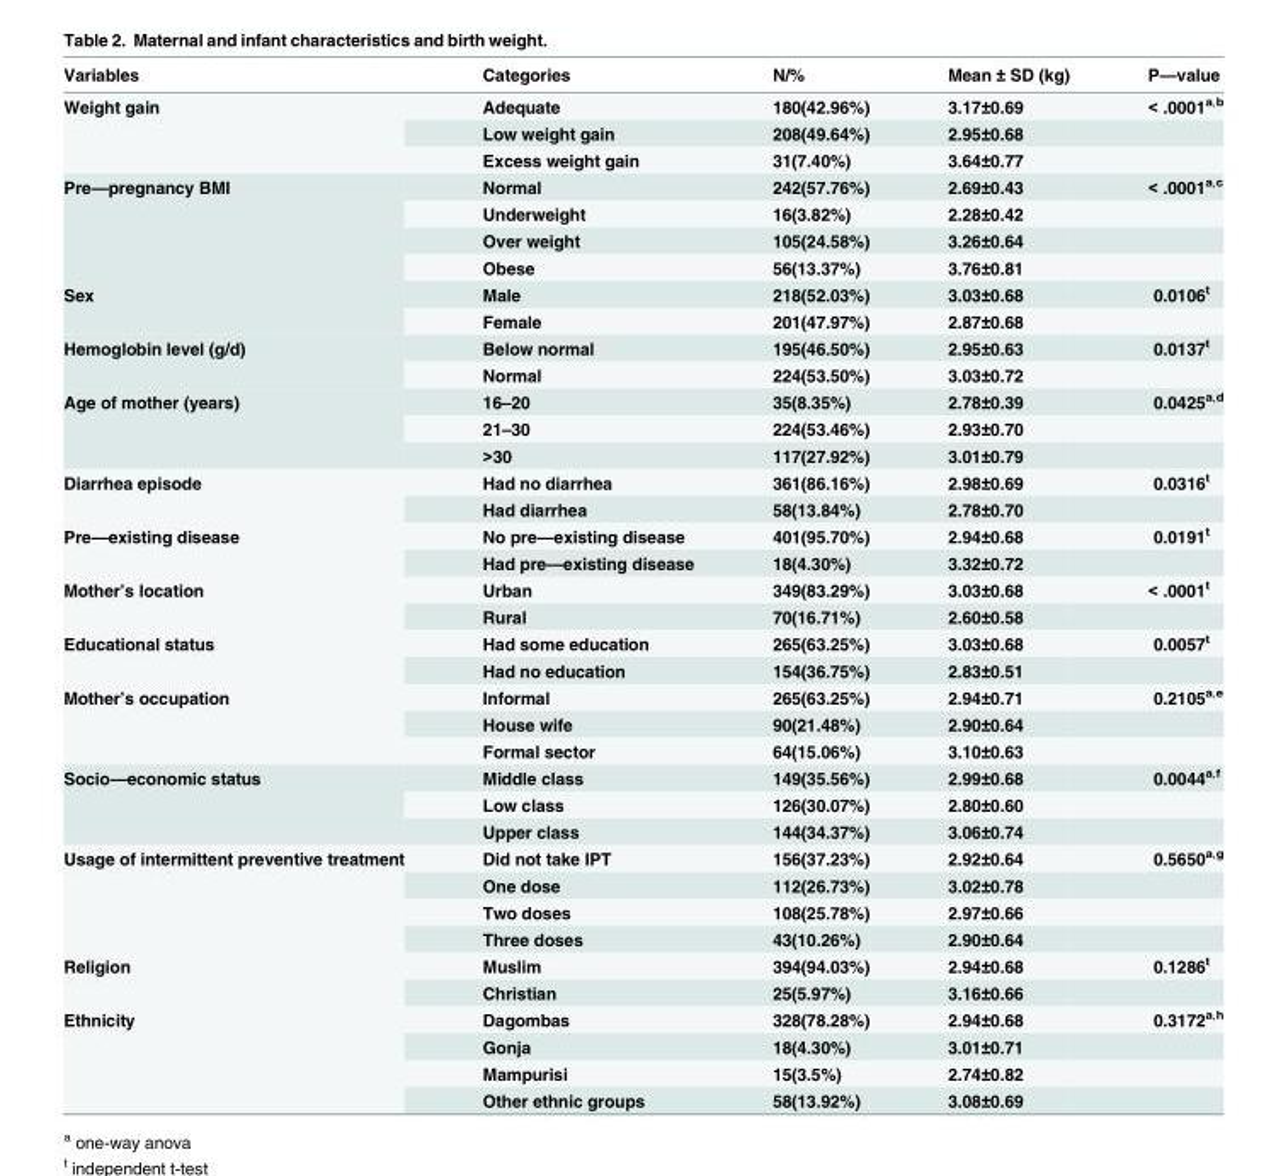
<table><thead><tr><td>Variables</td><td>Categories</td><td>N/%</td><td>Mean ± SD (kg)</td><td>P—value</td></tr></thead><tbody><tr><td rowspan="3">Weight gain</td><td>Adequate</td><td>180(42.96%)</td><td>3.17±0.69</td><td>&lt; .0001<sup>a,b</sup></td></tr><tr><td>Low weight gain</td><td>208(49.64%)</td><td>2.95±0.68</td><td></td></tr><tr><td>Excess weight gain</td><td>31(7.40%)</td><td>3.64±0.77</td><td></td></tr><tr><td rowspan="4">Pre—pregnancy BMI</td><td>Normal</td><td>242(57.76%)</td><td>2.69±0.43</td><td>&lt; .0001<sup>a,c</sup></td></tr><tr><td>Underweight</td><td>16(3.82%)</td><td>2.28±0.42</td><td></td></tr><tr><td>Over weight</td><td>105(24.58%)</td><td>3.26±0.64</td><td></td></tr><tr><td>Obese</td><td>56(13.37%)</td><td>3.76±0.81</td><td></td></tr><tr><td rowspan="2">Sex</td><td>Male</td><td>218(52.03%)</td><td>3.03±0.68</td><td>0.0106<sup>t</sup></td></tr><tr><td>Female</td><td>201(47.97%)</td><td>2.87±0.68</td><td></td></tr><tr><td rowspan="2">Hemoglobin level (g/d)</td><td>Below normal</td><td>195(46.50%)</td><td>2.95±0.63</td><td>0.0137<sup>t</sup></td></tr><tr><td>Normal</td><td>224(53.50%)</td><td>3.03±0.72</td><td></td></tr><tr><td rowspan="3">Age of mother (years)</td><td>16–20</td><td>35(8.35%)</td><td>2.78±0.39</td><td>0.0425<sup>a,d</sup></td></tr><tr><td>21–30</td><td>224(53.46%)</td><td>2.93±0.70</td><td></td></tr><tr><td>&gt;30</td><td>117(27.92%)</td><td>3.01±0.79</td><td></td></tr><tr><td rowspan="2">Diarrhea episode</td><td>Had no diarrhea</td><td>361(86.16%)</td><td>2.98±0.69</td><td>0.0316<sup>t</sup></td></tr><tr><td>Had diarrhea</td><td>58(13.84%)</td><td>2.78±0.70</td><td></td></tr><tr><td rowspan="2">Pre—existing disease</td><td>No pre—existing disease</td><td>401(95.70%)</td><td>2.94±0.68</td><td>0.0191<sup>t</sup></td></tr><tr><td>Had pre—existing disease</td><td>18(4.30%)</td><td>3.32±0.72</td><td></td></tr><tr><td rowspan="2">Mother’s location</td><td>Urban</td><td>349(83.29%)</td><td>3.03±0.68</td><td>&lt; .0001<sup>t</sup></td></tr><tr><td>Rural</td><td>70(16.71%)</td><td>2.60±0.58</td><td></td></tr><tr><td rowspan="2">Educational status</td><td>Had some education</td><td>265(63.25%)</td><td>3.03±0.68</td><td>0.0057<sup>t</sup></td></tr><tr><td>Had no education</td><td>154(36.75%)</td><td>2.83±0.51</td><td></td></tr><tr><td rowspan="3">Mother’s occupation</td><td>Informal</td><td>265(63.25%)</td><td>2.94±0.71</td><td>0.2105<sup>a,e</sup></td></tr><tr><td>House wife</td><td>90(21.48%)</td><td>2.90±0.64</td><td></td></tr><tr><td>Formal sector</td><td>64(15.06%)</td><td>3.10±0.63</td><td></td></tr><tr><td rowspan="3">Socio—economic status</td><td>Middle class</td><td>149(35.56%)</td><td>2.99±0.68</td><td>0.0044<sup>a,f</sup></td></tr><tr><td>Low class</td><td>126(30.07%)</td><td>2.80±0.60</td><td></td></tr><tr><td>Upper class</td><td>144(34.37%)</td><td>3.06±0.74</td><td></td></tr><tr><td rowspan="4">Usage of intermittent preventive treatment</td><td>Did not take IPT</td><td>156(37.23%)</td><td>2.92±0.64</td><td>0.5650<sup>a,g</sup></td></tr><tr><td>One dose</td><td>112(26.73%)</td><td>3.02±0.78</td><td></td></tr><tr><td>Two doses</td><td>108(25.78%)</td><td>2.97±0.66</td><td></td></tr><tr><td>Three doses</td><td>43(10.26%)</td><td>2.90±0.64</td><td></td></tr><tr><td rowspan="2">Religion</td><td>Muslim</td><td>394(94.03%)</td><td>2.94±0.68</td><td>0.1286<sup>t</sup></td></tr><tr><td>Christian</td><td>25(5.97%)</td><td>3.16±0.66</td><td></td></tr><tr><td rowspan="4">Ethnicity</td><td>Dagombas</td><td>328(78.28%)</td><td>2.94±0.68</td><td>0.3172<sup>a,h</sup></td></tr><tr><td>Gonja</td><td>18(4.30%)</td><td>3.01±0.71</td><td></td></tr><tr><td>Mampurisi</td><td>15(3.5%)</td><td>2.74±0.82</td><td></td></tr><tr><td>Other ethnic groups</td><td>58(13.92%)</td><td>3.08±0.69</td><td></td></tr></tbody></table>